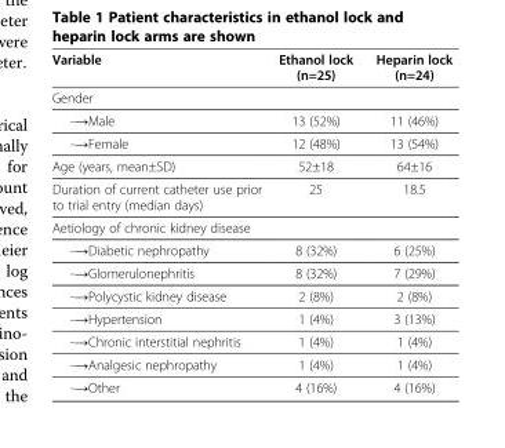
<table><thead><tr><td>Variable</td><td>Ethanol lock (n=25)</td><td>Heparin lock (n=24)</td></tr></thead><tbody><tr><td colspan="3">Gender</td></tr><tr><td>-→Male</td><td>13 (52%)</td><td>11 (46%)</td></tr><tr><td>-→Female</td><td>12 (48%)</td><td>13 (54%)</td></tr><tr><td>Age (years, mean±SD)</td><td>52±18</td><td>64±16</td></tr><tr><td>Duration of current catheter use prior to trial entry (median days)</td><td>25</td><td>18.5</td></tr><tr><td colspan="3">Aetiology of chronic kidney disease</td></tr><tr><td>-→Diabetic nephropathy</td><td>8 (32%)</td><td>6 (25%)</td></tr><tr><td>-→Glomerulonephritis</td><td>8 (32%)</td><td>7 (29%)</td></tr><tr><td>-→Polycystic kidney disease</td><td>2 (8%)</td><td>2 (8%)</td></tr><tr><td>-→Hypertension</td><td>1 (4%)</td><td>3 (13%)</td></tr><tr><td>-→Chronic interstitial nephritis</td><td>1 (4%)</td><td>1 (4%)</td></tr><tr><td>-→Analgesic nephropathy</td><td>1 (4%)</td><td>1 (4%)</td></tr><tr><td>-→Other</td><td>4 (16%)</td><td>4 (16%)</td></tr></tbody></table>